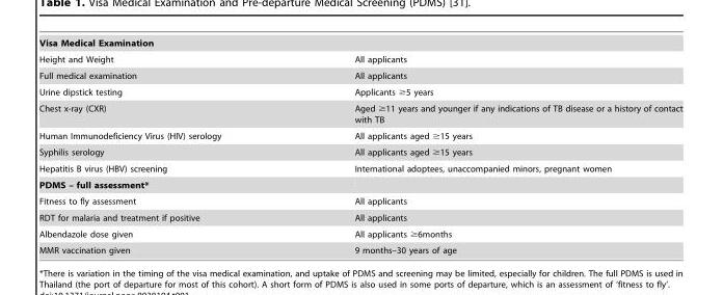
<table><tbody><tr><td colspan="2">Visa Medical Examination</td></tr><tr><td>Height and Weight</td><td>All applicants</td></tr><tr><td>Full medical examination</td><td>All applicants</td></tr><tr><td>Urine dipstick testing</td><td>Applicants ≥5 years</td></tr><tr><td>Chest x-ray (CXR)</td><td>Aged ≥11 years and younger if any indications of TB disease or a history of contact with TB</td></tr><tr><td>Human Immunodeficiency Virus (HIV) serology</td><td>All applicants aged ≥15 years</td></tr><tr><td>Syphilis serology</td><td>All applicants aged ≥15 years</td></tr><tr><td>Hepatitis B virus (HBV) screening</td><td>International adoptees, unaccompanied minors, pregnant women</td></tr><tr><td colspan="2">PDMS – full assessment*</td></tr><tr><td>Fitness to fly assessment</td><td>All applicants</td></tr><tr><td>RDT for malaria and treatment if positive</td><td>All applicants</td></tr><tr><td>Albendazole dose given</td><td>All applicants ≥6months</td></tr><tr><td>MMR vaccination given</td><td>9 months–30 years of age</td></tr></tbody></table>